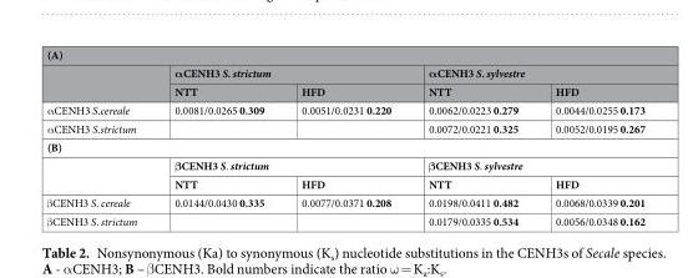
<table><thead><tr><td colspan="5">(A)</td></tr><tr><td rowspan="2"></td><td colspan="2">αCENH3 S. strictum</td><td colspan="2">αCENH3 S. sylvestre</td></tr><tr><td>NTT</td><td>HFD</td><td>NTT</td><td>HFD</td></tr></thead><tbody><tr><td>αCENH3 S.cereale</td><td>0.0081/0.0265 0.309</td><td>0.0051/0.0231 0.220</td><td>0.0062/0.0223 0.279</td><td>0.0044/0.0255 0.173</td></tr><tr><td>αCENH3 S.strictum</td><td></td><td></td><td>0.0072/0.0221 0.325</td><td>0.0052/0.0195 0.267</td></tr><tr><td colspan="5">(B)</td></tr><tr><td rowspan="2"></td><td colspan="2">βCENH3 S. strictum</td><td colspan="2">βCENH3 S. sylvestre</td></tr><tr><td>NTT</td><td>HFD</td><td>NTT</td><td>HFD</td></tr><tr><td>βCENH3 S. cereale</td><td>0.0144/0.0430 0.335</td><td>0.0077/0.0371 0.208</td><td>0.0198/0.0411 0.482</td><td>0.0068/0.0339 0.201</td></tr><tr><td>βCENH3 S. strictum</td><td></td><td></td><td>0.0179/0.0335 0.534</td><td>0.0056/0.0348 0.162</td></tr></tbody></table>